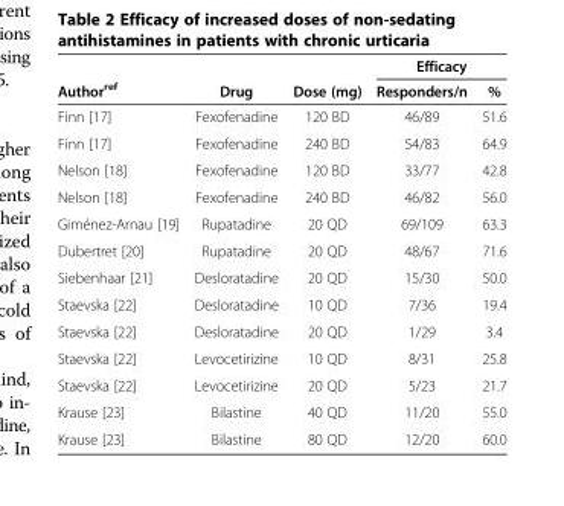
<table><thead><tr><td rowspan="2">Author<sup>ref</sup></td><td rowspan="2">Drug</td><td rowspan="2">Dose (mg)</td><td colspan="2">Efficacy</td></tr><tr><td>Responders/n</td><td>%</td></tr></thead><tbody><tr><td>Finn [17]</td><td>Fexofenadine</td><td>120 BD</td><td>46/89</td><td>51.6</td></tr><tr><td>Finn [17]</td><td>Fexofenadine</td><td>240 BD</td><td>54/83</td><td>64.9</td></tr><tr><td>Nelson [18]</td><td>Fexofenadine</td><td>120 BD</td><td>33/77</td><td>42.8</td></tr><tr><td>Nelson [18]</td><td>Fexofenadine</td><td>240 BD</td><td>46/82</td><td>56.0</td></tr><tr><td>Giménez-Arnau [19]</td><td>Rupatadine</td><td>20 QD</td><td>69/109</td><td>63.3</td></tr><tr><td>Dubertret [20]</td><td>Rupatadine</td><td>20 QD</td><td>48/67</td><td>71.6</td></tr><tr><td>Siebenhaar [21]</td><td>Desloratadine</td><td>20 QD</td><td>15/30</td><td>50.0</td></tr><tr><td>Staevska [22]</td><td>Desloratadine</td><td>10 QD</td><td>7/36</td><td>19.4</td></tr><tr><td>Staevska [22]</td><td>Desloratadine</td><td>20 QD</td><td>1/29</td><td>3.4</td></tr><tr><td>Staevska [22]</td><td>Levocetirizine</td><td>10 QD</td><td>8/31</td><td>25.8</td></tr><tr><td>Staevska [22]</td><td>Levocetirizine</td><td>20 QD</td><td>5/23</td><td>21.7</td></tr><tr><td>Krause [23]</td><td>Bilastine</td><td>40 QD</td><td>11/20</td><td>55.0</td></tr><tr><td>Krause [23]</td><td>Bilastine</td><td>80 QD</td><td>12/20</td><td>60.0</td></tr></tbody></table>